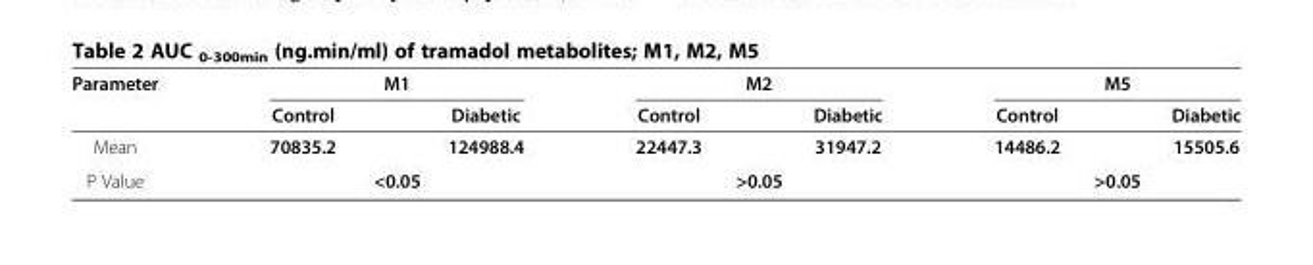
<table><thead><tr><td rowspan="2">Parameter</td><td colspan="2">M1</td><td colspan="2">M2</td><td colspan="2">M5</td></tr><tr><td>Control</td><td>Diabetic</td><td>Control</td><td>Diabetic</td><td>Control</td><td>Diabetic</td></tr></thead><tbody><tr><td>Mean</td><td>70835.2</td><td>124988.4</td><td>22447.3</td><td>31947.2</td><td>14486.2</td><td>15505.6</td></tr><tr><td>P Value</td><td colspan="2">&lt;0.05</td><td colspan="2">&gt;0.05</td><td colspan="2">&gt;0.05</td></tr></tbody></table>